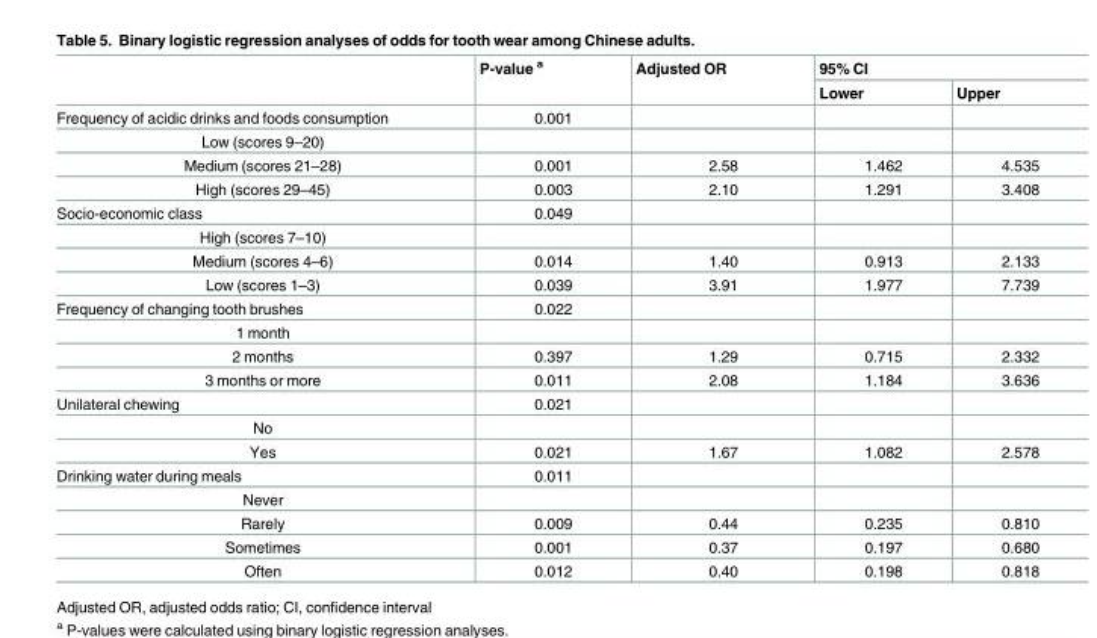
<table><thead><tr><td rowspan="2"></td><td rowspan="2">P-value <sup>a</sup></td><td rowspan="2">Adjusted OR</td><td colspan="2">95% CI</td></tr><tr><td>Lower</td><td>Upper</td></tr></thead><tbody><tr><td>Frequency of acidic drinks and foods consumption</td><td>0.001</td><td></td><td></td><td></td></tr><tr><td colspan="5">Low (scores 9–20)</td></tr><tr><td>Medium (scores 21–28)</td><td>0.001</td><td>2.58</td><td>1.462</td><td>4.535</td></tr><tr><td>High (scores 29–45)</td><td>0.003</td><td>2.10</td><td>1.291</td><td>3.408</td></tr><tr><td>Socio-economic class</td><td>0.049</td><td></td><td></td><td></td></tr><tr><td colspan="5">High (scores 7–10)</td></tr><tr><td>Medium (scores 4–6)</td><td>0.014</td><td>1.40</td><td>0.913</td><td>2.133</td></tr><tr><td>Low (scores 1–3)</td><td>0.039</td><td>3.91</td><td>1.977</td><td>7.739</td></tr><tr><td>Frequency of changing tooth brushes</td><td>0.022</td><td></td><td></td><td></td></tr><tr><td colspan="5">1 month</td></tr><tr><td>2 months</td><td>0.397</td><td>1.29</td><td>0.715</td><td>2.332</td></tr><tr><td>3 months or more</td><td>0.011</td><td>2.08</td><td>1.184</td><td>3.636</td></tr><tr><td>Unilateral chewing</td><td>0.021</td><td></td><td></td><td></td></tr><tr><td colspan="5">No</td></tr><tr><td>Yes</td><td>0.021</td><td>1.67</td><td>1.082</td><td>2.578</td></tr><tr><td>Drinking water during meals</td><td>0.011</td><td></td><td></td><td></td></tr><tr><td colspan="5">Never</td></tr><tr><td>Rarely</td><td>0.009</td><td>0.44</td><td>0.235</td><td>0.810</td></tr><tr><td>Sometimes</td><td>0.001</td><td>0.37</td><td>0.197</td><td>0.680</td></tr><tr><td>Often</td><td>0.012</td><td>0.40</td><td>0.198</td><td>0.818</td></tr></tbody></table>